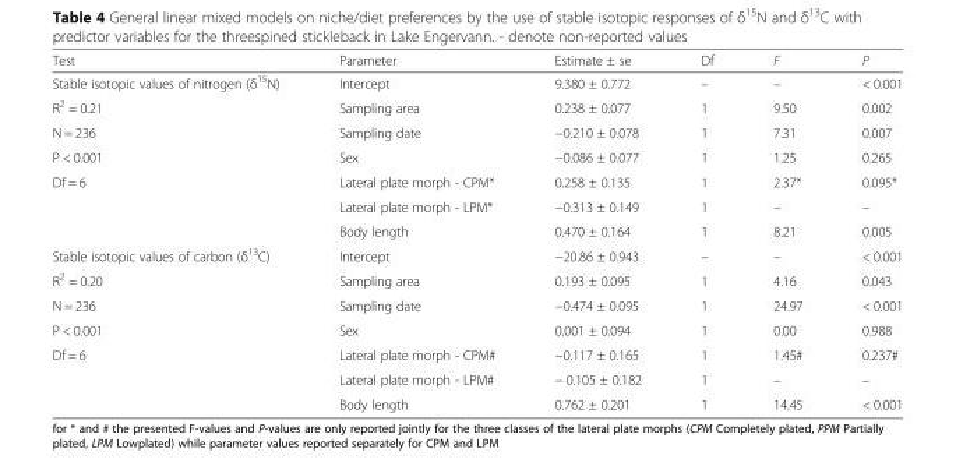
<table><thead><tr><td>Test</td><td>Parameter</td><td>Estimate ± se</td><td>Df</td><td>F</td><td>P</td></tr></thead><tbody><tr><td>Stable isotopic values of nitrogen (δ<sup>15</sup>N)</td><td>Intercept</td><td>9.380 ± 0.772</td><td>–</td><td>–</td><td>&lt; 0.001</td></tr><tr><td>R<sup>2</sup> = 0.21</td><td>Sampling area</td><td>0.238 ± 0.077</td><td>1</td><td>9.50</td><td>0.002</td></tr><tr><td>N = 236</td><td>Sampling date</td><td>−0.210 ± 0.078</td><td>1</td><td>7.31</td><td>0.007</td></tr><tr><td>P &lt; 0.001</td><td>Sex</td><td>−0.086 ± 0.077</td><td>1</td><td>1.25</td><td>0.265</td></tr><tr><td rowspan="3">Df = 6</td><td>Lateral plate morph - CPM*</td><td>0.258 ± 0.135</td><td>1</td><td>2.37*</td><td>0.095*</td></tr><tr><td>Lateral plate morph - LPM*</td><td>−0.313 ± 0.149</td><td>1</td><td>–</td><td>–</td></tr><tr><td>Body length</td><td>0.470 ± 0.164</td><td>1</td><td>8.21</td><td>0.005</td></tr><tr><td>Stable isotopic values of carbon (δ<sup>13</sup>C)</td><td>Intercept</td><td>−20.86 ± 0.943</td><td>–</td><td>–</td><td>&lt; 0.001</td></tr><tr><td>R<sup>2</sup> = 0.20</td><td>Sampling area</td><td>0.193 ± 0.095</td><td>1</td><td>4.16</td><td>0.043</td></tr><tr><td>N = 236</td><td>Sampling date</td><td>−0.474 ± 0.095</td><td>1</td><td>24.97</td><td>&lt; 0.001</td></tr><tr><td>P &lt; 0.001</td><td>Sex</td><td>0.001 ± 0.094</td><td>1</td><td>0.00</td><td>0.988</td></tr><tr><td rowspan="3">Df = 6</td><td>Lateral plate morph - CPM#</td><td>−0.117 ± 0.165</td><td>1</td><td>1.45#</td><td>0.237#</td></tr><tr><td>Lateral plate morph - LPM#</td><td>− 0.105 ± 0.182</td><td>1</td><td>–</td><td>–</td></tr><tr><td>Body length</td><td>0.762 ± 0.201</td><td>1</td><td>14.45</td><td>&lt; 0.001</td></tr></tbody></table>